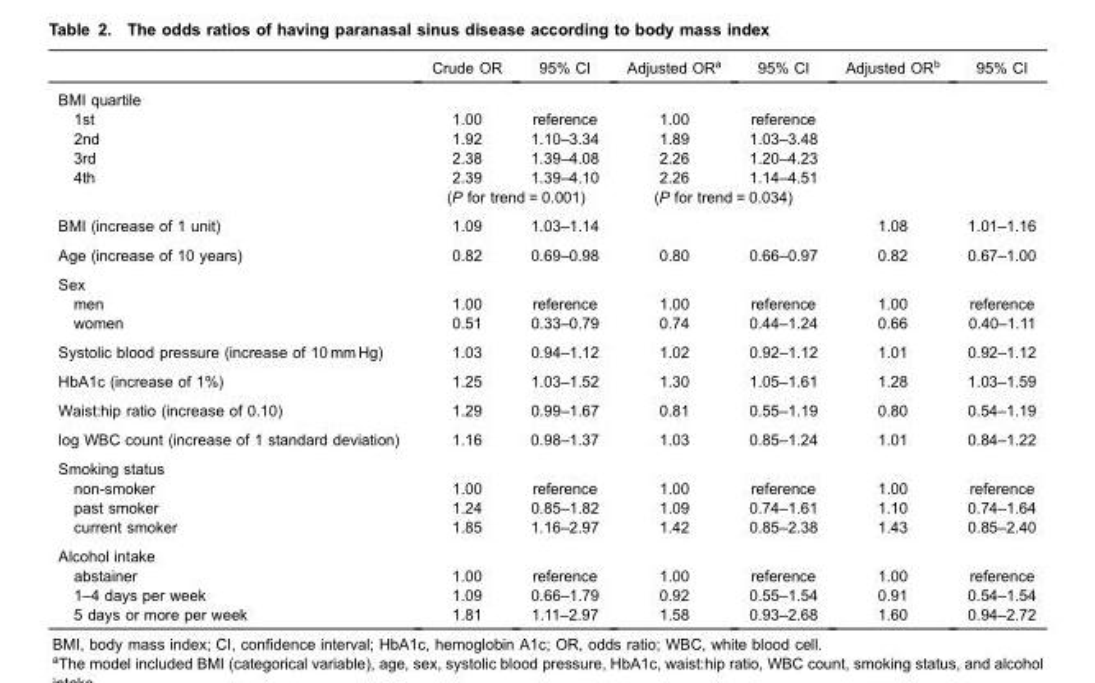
<table><thead><tr><td></td><td>Crude OR</td><td>95% CI</td><td>Adjusted OR<sup>a</sup></td><td>95% CI</td><td>Adjusted OR<sup>b</sup></td><td>95% CI</td></tr></thead><tbody><tr><td colspan="7">BMI quartile</td></tr><tr><td>1st</td><td>1.00</td><td>reference</td><td>1.00</td><td>reference</td><td></td><td></td></tr><tr><td>2nd</td><td>1.92</td><td>1.10–3.34</td><td>1.89</td><td>1.03–3.48</td><td></td><td></td></tr><tr><td>3rd</td><td>2.38</td><td>1.39–4.08</td><td>2.26</td><td>1.20–4.23</td><td></td><td></td></tr><tr><td rowspan="2">4th</td><td>2.39</td><td>1.39–4.10</td><td>2.26</td><td>1.14–4.51</td><td></td><td></td></tr><tr><td colspan="2">(P for trend = 0.001)</td><td colspan="2">(P for trend = 0.034)</td><td></td><td></td></tr><tr><td>BMI (increase of 1 unit)</td><td>1.09</td><td>1.03–1.14</td><td></td><td></td><td>1.08</td><td>1.01–1.16</td></tr><tr><td>Age (increase of 10 years)</td><td>0.82</td><td>0.69–0.98</td><td>0.80</td><td>0.66–0.97</td><td>0.82</td><td>0.67–1.00</td></tr><tr><td colspan="7">Sex</td></tr><tr><td>men</td><td>1.00</td><td>reference</td><td>1.00</td><td>reference</td><td>1.00</td><td>reference</td></tr><tr><td>women</td><td>0.51</td><td>0.33–0.79</td><td>0.74</td><td>0.44–1.24</td><td>0.66</td><td>0.40–1.11</td></tr><tr><td>Systolic blood pressure (increase of 10 mm Hg)</td><td>1.03</td><td>0.94–1.12</td><td>1.02</td><td>0.92–1.12</td><td>1.01</td><td>0.92–1.12</td></tr><tr><td>HbA1c (increase of 1%)</td><td>1.25</td><td>1.03–1.52</td><td>1.30</td><td>1.05–1.61</td><td>1.28</td><td>1.03–1.59</td></tr><tr><td>Waist:hip ratio (increase of 0.10)</td><td>1.29</td><td>0.99–1.67</td><td>0.81</td><td>0.55–1.19</td><td>0.80</td><td>0.54–1.19</td></tr><tr><td>log WBC count (increase of 1 standard deviation)</td><td>1.16</td><td>0.98–1.37</td><td>1.03</td><td>0.85–1.24</td><td>1.01</td><td>0.84–1.22</td></tr><tr><td colspan="7">Smoking status</td></tr><tr><td>non-smoker</td><td>1.00</td><td>reference</td><td>1.00</td><td>reference</td><td>1.00</td><td>reference</td></tr><tr><td>past smoker</td><td>1.24</td><td>0.85–1.82</td><td>1.09</td><td>0.74–1.61</td><td>1.10</td><td>0.74–1.64</td></tr><tr><td>current smoker</td><td>1.85</td><td>1.16–2.97</td><td>1.42</td><td>0.85–2.38</td><td>1.43</td><td>0.85–2.40</td></tr><tr><td colspan="7">Alcohol intake</td></tr><tr><td>abstainer</td><td>1.00</td><td>reference</td><td>1.00</td><td>reference</td><td>1.00</td><td>reference</td></tr><tr><td>1–4 days per week</td><td>1.09</td><td>0.66–1.79</td><td>0.92</td><td>0.55–1.54</td><td>0.91</td><td>0.54–1.54</td></tr><tr><td>5 days or more per week</td><td>1.81</td><td>1.11–2.97</td><td>1.58</td><td>0.93–2.68</td><td>1.60</td><td>0.94–2.72</td></tr></tbody></table>